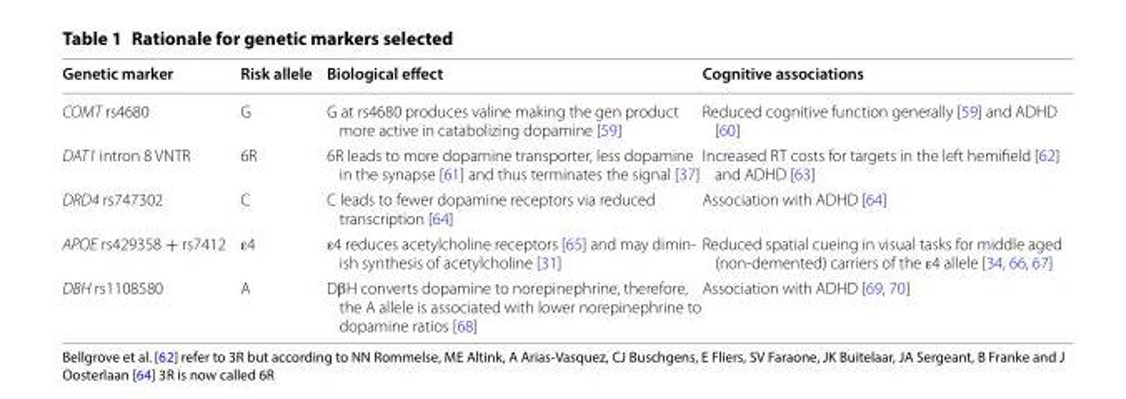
<table><thead><tr><td>Genetic marker</td><td>Risk allele</td><td>Biological effect</td><td>Cognitive associations</td></tr></thead><tbody><tr><td>COMT rs4680</td><td>G</td><td>G at rs4680 produces valine making the gen product more active in catabolizing dopamine [59]</td><td>Reduced cognitive function generally [59] and ADHD [60]</td></tr><tr><td>DAT1 intron 8 VNTR</td><td>6R</td><td>6R leads to more dopamine transporter, less dopamine in the synapse [61] and thus terminates the signal [37]</td><td>Increased RT costs for targets in the left hemifield [62] and ADHD [63]</td></tr><tr><td>DRD4 rs747302</td><td>C</td><td>C leads to fewer dopamine receptors via reduced transcription [64]</td><td>Association with ADHD [64]</td></tr><tr><td>APOE rs429358 + rs7412</td><td>ε4</td><td>ε4 reduces acetylcholine receptors [65] and may dimin- ish synthesis of acetylcholine [31]</td><td>Reduced spatial cueing in visual tasks for middle aged (non-demented) carriers of the ε4 allele [34, 66, 67]</td></tr><tr><td>DBH rs1108580</td><td>A</td><td>DβH converts dopamine to norepinephrine, therefore, the A allele is associated with lower norepinephrine to dopamine ratios [68]</td><td>Association with ADHD [69, 70]</td></tr></tbody></table>